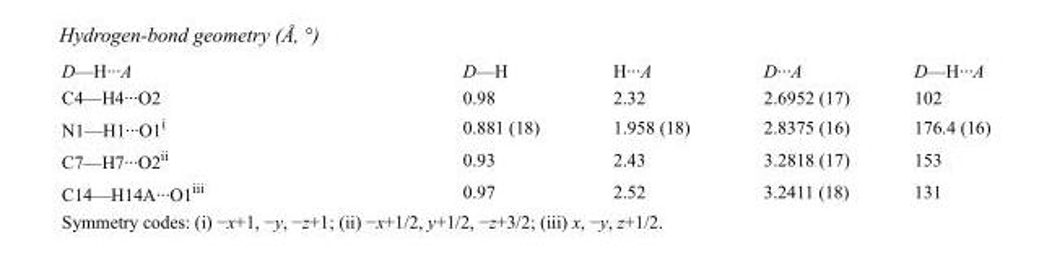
<table><tbody><tr><td>D—H···A</td><td>D—H</td><td>H···A</td><td>D···A</td><td>D—H···A</td></tr><tr><td>C4—H4···O2</td><td>0.98</td><td>2.32</td><td>2.6952 (17)</td><td>102</td></tr><tr><td>N1—H1···O1<sup>i</sup></td><td>0.881 (18)</td><td>1.958 (18)</td><td>2.8375 (16)</td><td>176.4 (16)</td></tr><tr><td>C7—H7···O2<sup>ii</sup></td><td>0.93</td><td>2.43</td><td>3.2818 (17)</td><td>153</td></tr><tr><td>C14—H14A···O1<sup>iii</sup></td><td>0.97</td><td>2.52</td><td>3.2411 (18)</td><td>131</td></tr></tbody></table>